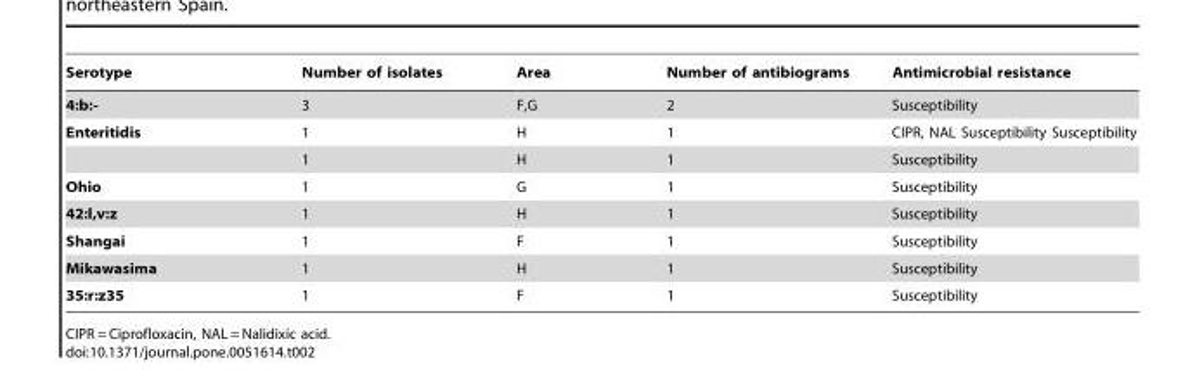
<table><thead><tr><td>Serotype</td><td>Number of isolates</td><td>Area</td><td>Number of antibiograms</td><td>Antimicrobial resistance</td></tr></thead><tbody><tr><td>4:b:-</td><td>3</td><td>F,G</td><td>2</td><td>Susceptibility</td></tr><tr><td rowspan="2">Enteritidis</td><td>1</td><td>H</td><td>1</td><td>CIPR, NAL Susceptibility Susceptibility</td></tr><tr><td>1</td><td>H</td><td>1</td><td>Susceptibility</td></tr><tr><td>Ohio</td><td>1</td><td>G</td><td>1</td><td>Susceptibility</td></tr><tr><td>42:l,v:z</td><td>1</td><td>H</td><td>1</td><td>Susceptibility</td></tr><tr><td>Shangai</td><td>1</td><td>F</td><td>1</td><td>Susceptibility</td></tr><tr><td>Mikawasima</td><td>1</td><td>H</td><td>1</td><td>Susceptibility</td></tr><tr><td>35:r:z35</td><td>1</td><td>F</td><td>1</td><td>Susceptibility</td></tr></tbody></table>